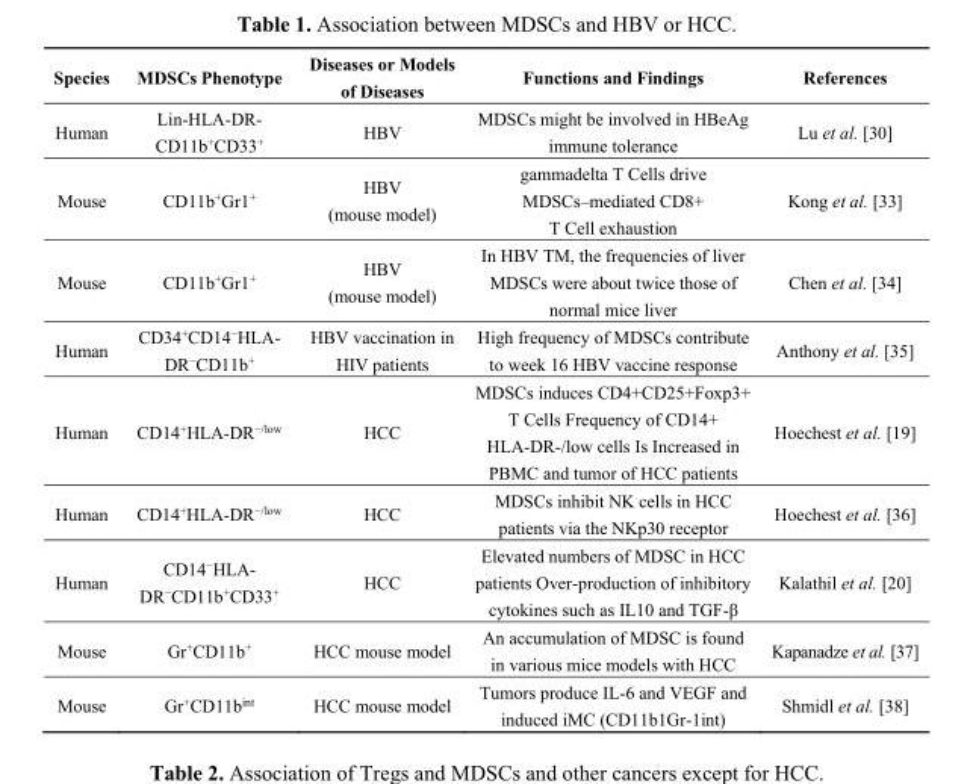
<table><thead><tr><td>Species</td><td>MDSCs Phenotype</td><td>Diseases or Models of Diseases</td><td>Functions and Findings</td><td>References</td></tr></thead><tbody><tr><td>Human</td><td>Lin-HLA-DR- CD11b<sup>+</sup>CD33<sup>+</sup></td><td>HBV</td><td>MDSCs might be involved in HBeAg immune tolerance</td><td>Lu et al. [30]</td></tr><tr><td>Mouse</td><td>CD11b<sup>+</sup>Gr1<sup>+</sup></td><td>HBV (mouse model)</td><td>gammadelta T Cells drive MDSCs–mediated CD8+ T Cell exhaustion</td><td>Kong et al. [33]</td></tr><tr><td>Mouse</td><td>CD11b<sup>+</sup>Gr1<sup>+</sup></td><td>HBV (mouse model)</td><td>In HBV TM, the frequencies of liver MDSCs were about twice those of normal mice liver</td><td>Chen et al. [34]</td></tr><tr><td>Human</td><td>CD34<sup>+</sup>CD14<sup>−</sup>HLA- DR<sup>−</sup>CD11b<sup>+</sup></td><td>HBV vaccination in HIV patients</td><td>High frequency of MDSCs contribute to week 16 HBV vaccine response</td><td>Anthony et al. [35]</td></tr><tr><td>Human</td><td>CD14<sup>+</sup>HLA-DR<sup>−/low</sup></td><td>HCC</td><td>MDSCs induces CD4+CD25+Foxp3+ T Cells Frequency of CD14+ HLA-DR-/low cells Is Increased in PBMC and tumor of HCC patients</td><td>Hoechest et al. [19]</td></tr><tr><td>Human</td><td>CD14<sup>+</sup>HLA-DR<sup>−/low</sup></td><td>HCC</td><td>MDSCs inhibit NK cells in HCC patients via the NKp30 receptor</td><td>Hoechest et al. [36]</td></tr><tr><td>Human</td><td>CD14<sup>−</sup>HLA- DR<sup>−</sup>CD11b<sup>+</sup>CD33<sup>+</sup></td><td>HCC</td><td>Elevated numbers of MDSC in HCC patients Over-production of inhibitory cytokines such as IL10 and TGF-β</td><td>Kalathil et al. [20]</td></tr><tr><td>Mouse</td><td>Gr<sup>+</sup>CD11b<sup>+</sup></td><td>HCC mouse model</td><td>An accumulation of MDSC is found in various mice models with HCC</td><td>Kapanadze et al. [37]</td></tr><tr><td>Mouse</td><td>Gr<sup>+</sup>CD11b<sup>int</sup></td><td>HCC mouse model</td><td>Tumors produce IL-6 and VEGF and induced iMC (CD11b1Gr-1int)</td><td>Shmidl et al. [38]</td></tr></tbody></table>